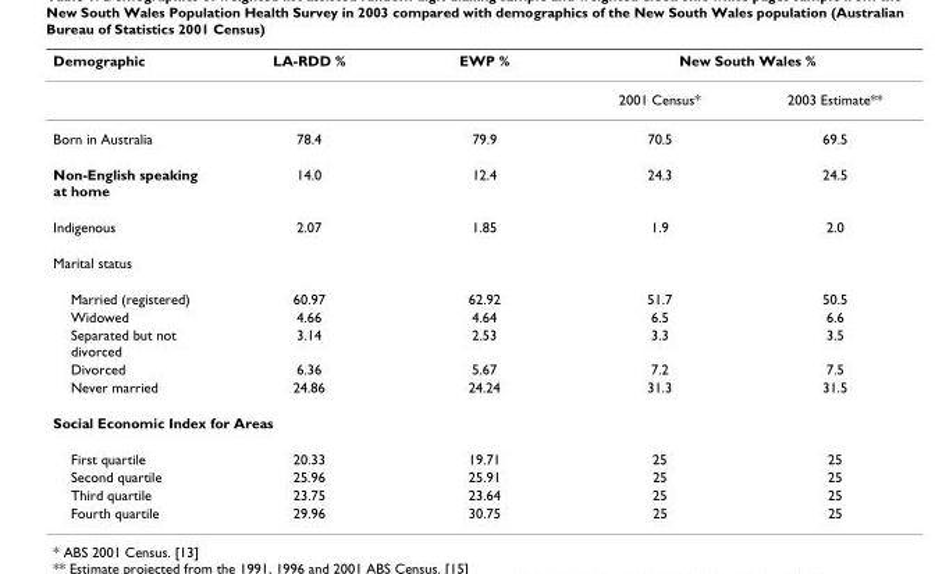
<table><thead><tr><td rowspan="2">Demographic</td><td rowspan="2">LA-RDD %</td><td rowspan="2">EWP %</td><td colspan="2">New South Wales %</td></tr><tr><td>2001 Census*</td><td>2003 Estimate**</td></tr></thead><tbody><tr><td>Born in Australia</td><td>78.4</td><td>79.9</td><td>70.5</td><td>69.5</td></tr><tr><td>Non-English speaking at home</td><td>14.0</td><td>12.4</td><td>24.3</td><td>24.5</td></tr><tr><td>Indigenous</td><td>2.07</td><td>1.85</td><td>1.9</td><td>2.0</td></tr><tr><td colspan="5">Marital status</td></tr><tr><td>Married (registered)</td><td>60.97</td><td>62.92</td><td>51.7</td><td>50.5</td></tr><tr><td>Widowed</td><td>4.66</td><td>4.64</td><td>6.5</td><td>6.6</td></tr><tr><td>Separated but not divorced</td><td>3.14</td><td>2.53</td><td>3.3</td><td>3.5</td></tr><tr><td>Divorced</td><td>6.36</td><td>5.67</td><td>7.2</td><td>7.5</td></tr><tr><td>Never married</td><td>24.86</td><td>24.24</td><td>31.3</td><td>31.5</td></tr><tr><td colspan="5">Social Economic Index for Areas</td></tr><tr><td>First quartile</td><td>20.33</td><td>19.71</td><td>25</td><td>25</td></tr><tr><td>Second quartile</td><td>25.96</td><td>25.91</td><td>25</td><td>25</td></tr><tr><td>Third quartile</td><td>23.75</td><td>23.64</td><td>25</td><td>25</td></tr><tr><td>Fourth quartile</td><td>29.96</td><td>30.75</td><td>25</td><td>25</td></tr></tbody></table>